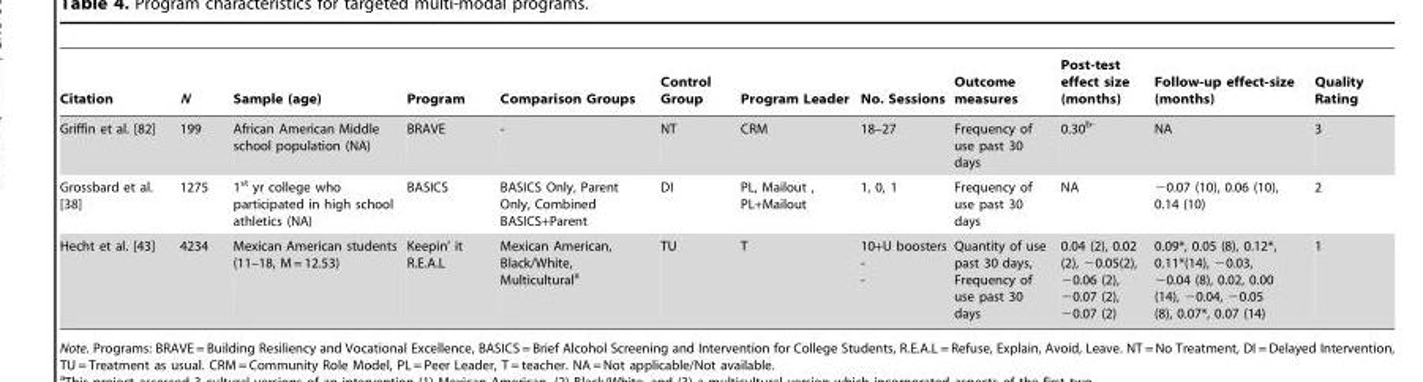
<table><thead><tr><td>Citation</td><td>N</td><td>Sample (age)</td><td>Program</td><td>Comparison Groups</td><td>Control Group</td><td>Program Leader</td><td>No. Sessions</td><td>Outcome measures</td><td>Post-test effect size (months)</td><td>Follow-up effect-size (months)</td><td>Quality Rating</td></tr></thead><tbody><tr><td>Griffin et al. [82]</td><td>199</td><td>African American Middle school population (NA)</td><td>BRAVE</td><td>-</td><td>NT</td><td>CRM</td><td>18–27</td><td>Frequency of use past 30 days</td><td>0.30<sup>b-</sup></td><td>NA</td><td>3</td></tr><tr><td>Grossbard et al. [38]</td><td>1275</td><td>1<sup>st</sup> yr college who participated in high school athletics (NA)</td><td>BASICS</td><td>BASICS Only, Parent Only, Combined BASICS+Parent</td><td>DI</td><td>PL, Mailout , PL+Mailout</td><td>1, 0, 1</td><td>Frequency of use past 30 days</td><td>NA</td><td>−0.07 (10), 0.06 (10), 0.14 (10)</td><td>2</td></tr><tr><td>Hecht et al. [43]</td><td>4234</td><td>Mexican American students (11–18, M = 12.53)</td><td>Keepin’ it R.E.A.L</td><td>Mexican American, Black/White, Multicultural<sup>a</sup></td><td>TU</td><td>T</td><td>10+U boosters - -</td><td>Quantity of use past 30 days, Frequency of use past 30 days</td><td>0.04 (2), 0.02 (2), −0.05(2), −0.06 (2), −0.07 (2), −0.07 (2)</td><td>0.09*, 0.05 (8), 0.12*, 0.11*(14), −0.03, −0.04 (8), 0.02, 0.00 (14), −0.04, −0.05 (8), 0.07*, 0.07 (14)</td><td>1</td></tr></tbody></table>